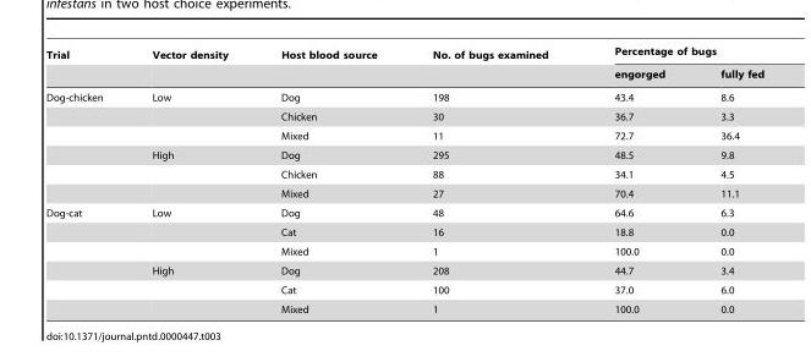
<table><thead><tr><td rowspan="2">Trial</td><td rowspan="2">Vector density</td><td rowspan="2">Host blood source</td><td rowspan="2">No. of bugs examined</td><td colspan="2">Percentage of bugs</td></tr><tr><td>engorged</td><td>fully fed</td></tr></thead><tbody><tr><td rowspan="6">Dog-chicken</td><td>Low</td><td>Dog</td><td>198</td><td>43.4</td><td>8.6</td></tr><tr><td></td><td>Chicken</td><td>30</td><td>36.7</td><td>3.3</td></tr><tr><td></td><td>Mixed</td><td>11</td><td>72.7</td><td>36.4</td></tr><tr><td>High</td><td>Dog</td><td>295</td><td>48.5</td><td>9.8</td></tr><tr><td></td><td>Chicken</td><td>88</td><td>34.1</td><td>4.5</td></tr><tr><td></td><td>Mixed</td><td>27</td><td>70.4</td><td>11.1</td></tr><tr><td rowspan="6">Dog-cat</td><td>Low</td><td>Dog</td><td>48</td><td>64.6</td><td>6.3</td></tr><tr><td></td><td>Cat</td><td>16</td><td>18.8</td><td>0.0</td></tr><tr><td></td><td>Mixed</td><td>1</td><td>100.0</td><td>0.0</td></tr><tr><td>High</td><td>Dog</td><td>208</td><td>44.7</td><td>3.4</td></tr><tr><td></td><td>Cat</td><td>100</td><td>37.0</td><td>6.0</td></tr><tr><td></td><td>Mixed</td><td>1</td><td>100.0</td><td>0.0</td></tr></tbody></table>